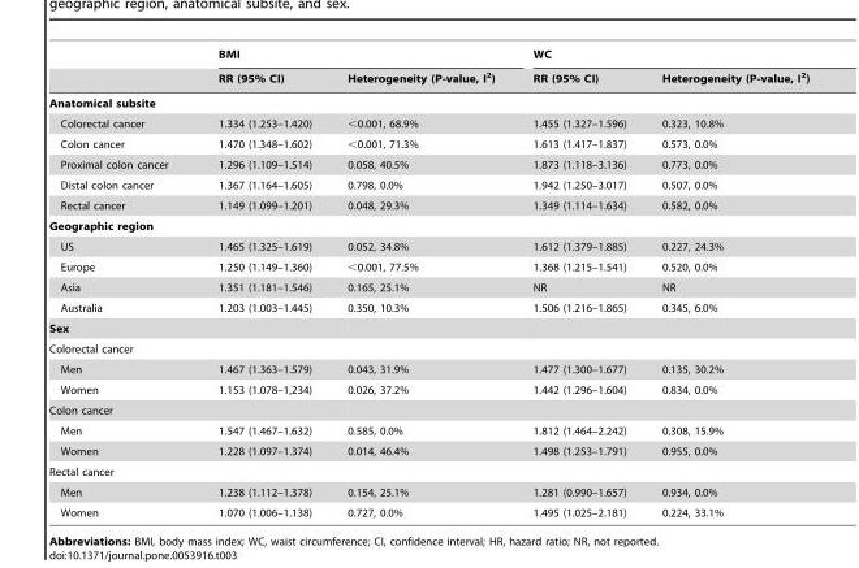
<table><thead><tr><td rowspan="2"></td><td colspan="2">BMI</td><td colspan="2">WC</td></tr><tr><td>RR (95% CI)</td><td>Heterogeneity (P-value, I<sup>2</sup>)</td><td>RR (95% CI)</td><td>Heterogeneity (P-value, I<sup>2</sup>)</td></tr></thead><tbody><tr><td colspan="5">Anatomical subsite</td></tr><tr><td>Colorectal cancer</td><td>1.334 (1.253–1.420)</td><td>&lt;0.001, 68.9%</td><td>1.455 (1.327–1.596)</td><td>0.323, 10.8%</td></tr><tr><td>Colon cancer</td><td>1.470 (1.348–1.602)</td><td>&lt;0.001, 71.3%</td><td>1.613 (1.417–1.837)</td><td>0.573, 0.0%</td></tr><tr><td>Proximal colon cancer</td><td>1.296 (1.109–1.514)</td><td>0.058, 40.5%</td><td>1.873 (1.118–3.136)</td><td>0.773, 0.0%</td></tr><tr><td>Distal colon cancer</td><td>1.367 (1.164–1.605)</td><td>0.798, 0.0%</td><td>1.942 (1.250–3.017)</td><td>0.507, 0.0%</td></tr><tr><td>Rectal cancer</td><td>1.149 (1.099–1.201)</td><td>0.048, 29.3%</td><td>1.349 (1.114–1.634)</td><td>0.582, 0.0%</td></tr><tr><td colspan="5">Geographic region</td></tr><tr><td>US</td><td>1.465 (1.325–1.619)</td><td>0.052, 34.8%</td><td>1.612 (1.379–1.885)</td><td>0.227, 24.3%</td></tr><tr><td>Europe</td><td>1.250 (1.149–1.360)</td><td>&lt;0.001, 77.5%</td><td>1.368 (1.215–1.541)</td><td>0.520, 0.0%</td></tr><tr><td>Asia</td><td>1.351 (1.181–1.546)</td><td>0.165, 25.1%</td><td>NR</td><td>NR</td></tr><tr><td>Australia</td><td>1.203 (1.003–1.445)</td><td>0.350, 10.3%</td><td>1.506 (1.216–1.865)</td><td>0.345, 6.0%</td></tr><tr><td colspan="5">Sex</td></tr><tr><td colspan="5">Colorectal cancer</td></tr><tr><td>Men</td><td>1.467 (1.363–1.579)</td><td>0.043, 31.9%</td><td>1.477 (1.300–1.677)</td><td>0.135, 30.2%</td></tr><tr><td>Women</td><td>1.153 (1.078–1,234)</td><td>0.026, 37.2%</td><td>1.442 (1.296–1.604)</td><td>0.834, 0.0%</td></tr><tr><td colspan="5">Colon cancer</td></tr><tr><td>Men</td><td>1.547 (1.467–1.632)</td><td>0.585, 0.0%</td><td>1.812 (1.464–2.242)</td><td>0.308, 15.9%</td></tr><tr><td>Women</td><td>1.228 (1.097–1.374)</td><td>0.014, 46.4%</td><td>1.498 (1.253–1.791)</td><td>0.955, 0.0%</td></tr><tr><td colspan="5">Rectal cancer</td></tr><tr><td>Men</td><td>1.238 (1.112–1.378)</td><td>0.154, 25.1%</td><td>1.281 (0.990–1.657)</td><td>0.934, 0.0%</td></tr><tr><td>Women</td><td>1.070 (1.006–1.138)</td><td>0.727, 0.0%</td><td>1.495 (1.025–2.181)</td><td>0.224, 33.1%</td></tr></tbody></table>